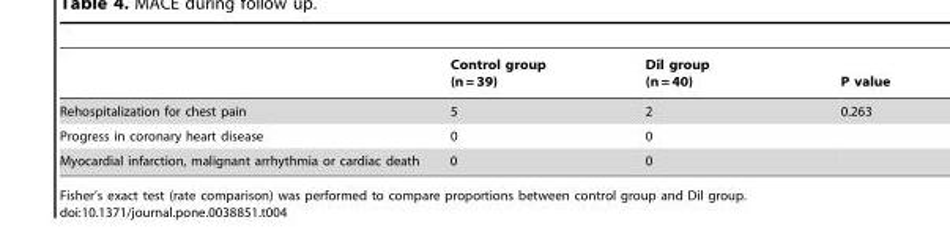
<table><thead><tr><td></td><td>Control group (n = 39)</td><td>Dil group (n = 40)</td><td>P value</td></tr></thead><tbody><tr><td>Rehospitalization for chest pain</td><td>5</td><td>2</td><td>0.263</td></tr><tr><td>Progress in coronary heart disease</td><td>0</td><td>0</td><td></td></tr><tr><td>Myocardial infarction, malignant arrhythmia or cardiac death</td><td>0</td><td>0</td><td></td></tr></tbody></table>